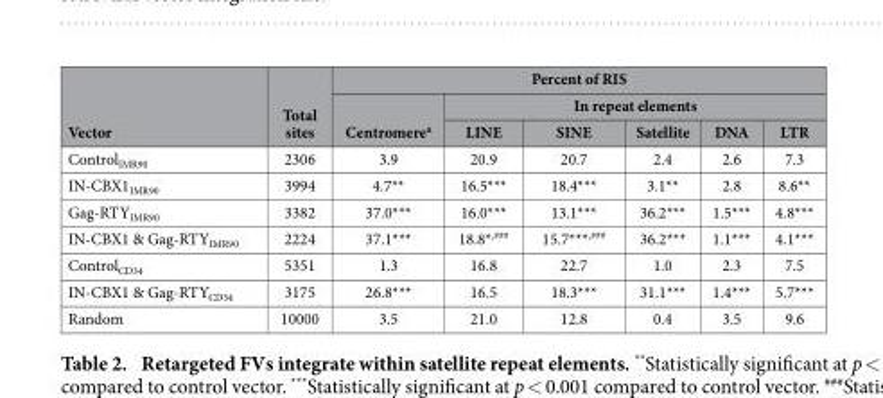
<table><thead><tr><td rowspan="3">Vector</td><td rowspan="3">Total sites</td><td colspan="6">Percent of RIS</td></tr><tr><td rowspan="2">Centromere<sup>a</sup></td><td colspan="5">In repeat elements</td></tr><tr><td>LINE</td><td>SINE</td><td>Satellite</td><td>DNA</td><td>LTR</td></tr></thead><tbody><tr><td>Control<sub>IMR90</sub></td><td>2306</td><td>3.9</td><td>20.9</td><td>20.7</td><td>2.4</td><td>2.6</td><td>7.3</td></tr><tr><td>IN-CBX1<sub>IMR90</sub></td><td>3994</td><td>4.7**</td><td>16.5***</td><td>18.4***</td><td>3.1**</td><td>2.8</td><td>8.6**</td></tr><tr><td>Gag-RTY<sub>IMR90</sub></td><td>3382</td><td>37.0***</td><td>16.0***</td><td>13.1***</td><td>36.2***</td><td>1.5***</td><td>4.8***</td></tr><tr><td>IN-CBX1 &amp; Gag-RTY<sub>IMR90</sub></td><td>2224</td><td>37.1***</td><td>18.8*<sup>,</sup>###</td><td>15.7***<sup>,</sup>###</td><td>36.2***</td><td>1.1***</td><td>4.1***</td></tr><tr><td>Control<sub>CD34</sub></td><td>5351</td><td>1.3</td><td>16.8</td><td>22.7</td><td>1.0</td><td>2.3</td><td>7.5</td></tr><tr><td>IN-CBX1 &amp; Gag-RTY<sub>CD34</sub></td><td>3175</td><td>26.8***</td><td>16.5</td><td>18.3***</td><td>31.1***</td><td>1.4***</td><td>5.7***</td></tr><tr><td>Random</td><td>10000</td><td>3.5</td><td>21.0</td><td>12.8</td><td>0.4</td><td>3.5</td><td>9.6</td></tr></tbody></table>